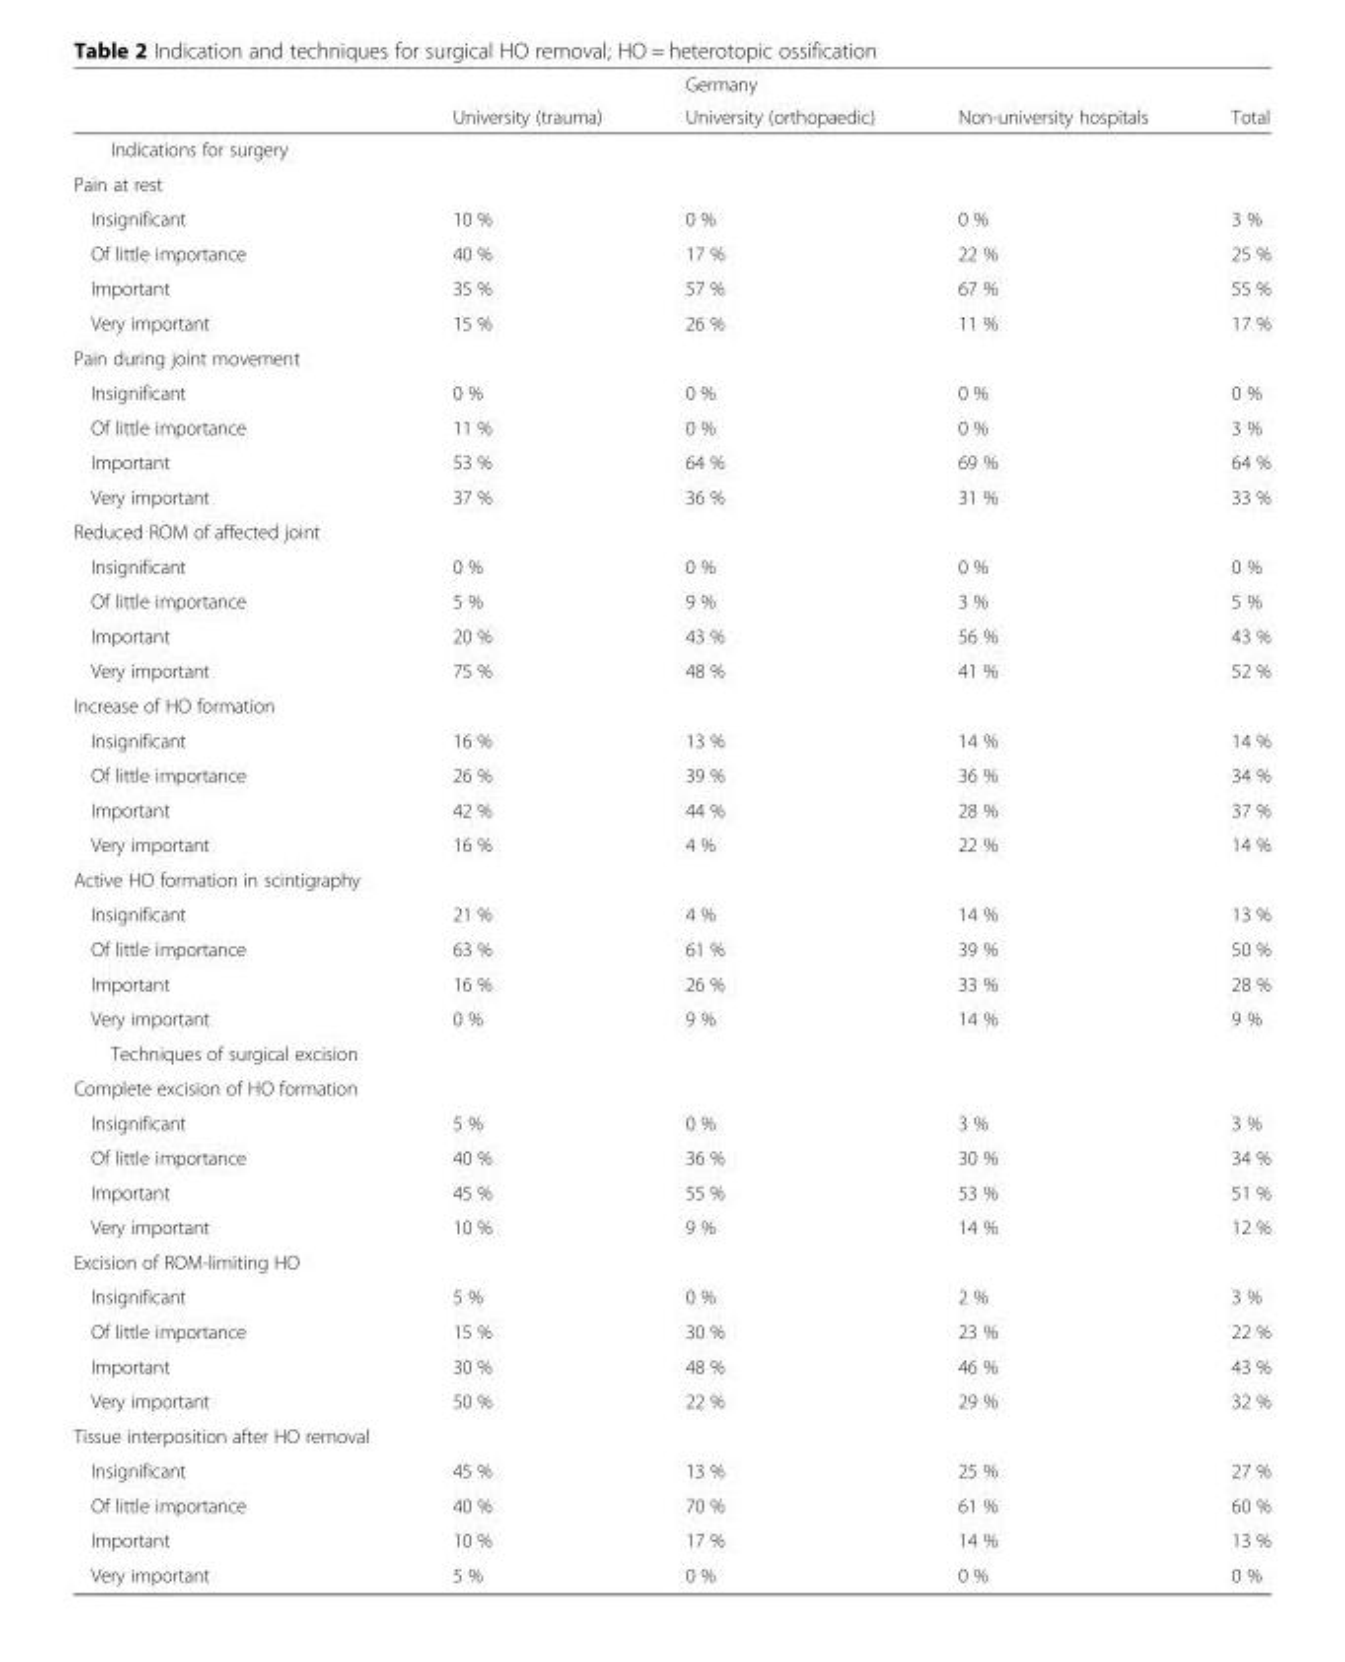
<table><thead><tr><td rowspan="2"></td><td rowspan="2">University (trauma)</td><td rowspan="2">Germany University (orthopaedic)</td><td rowspan="2">Non-university hospitals</td><td rowspan="2">Total</td></tr><tr></tr></thead><tbody><tr><td colspan="5">Indications for surgery</td></tr><tr><td colspan="5">Pain at rest</td></tr><tr><td>Insignificant</td><td>10 %</td><td>0 %</td><td>0 %</td><td>3 %</td></tr><tr><td>Of little importance</td><td>40 %</td><td>17 %</td><td>22 %</td><td>25 %</td></tr><tr><td>Important</td><td>35 %</td><td>57 %</td><td>67 %</td><td>55 %</td></tr><tr><td>Very important</td><td>15 %</td><td>26 %</td><td>11 %</td><td>17 %</td></tr><tr><td colspan="5">Pain during joint movement</td></tr><tr><td>Insignificant</td><td>0 %</td><td>0 %</td><td>0 %</td><td>0 %</td></tr><tr><td>Of little importance</td><td>11 %</td><td>0 %</td><td>0 %</td><td>3 %</td></tr><tr><td>Important</td><td>53 %</td><td>64 %</td><td>69 %</td><td>64 %</td></tr><tr><td>Very important</td><td>37 %</td><td>36 %</td><td>31 %</td><td>33 %</td></tr><tr><td colspan="5">Reduced ROM of affected joint</td></tr><tr><td>Insignificant</td><td>0 %</td><td>0 %</td><td>0 %</td><td>0 %</td></tr><tr><td>Of little importance</td><td>5 %</td><td>9 %</td><td>3 %</td><td>5 %</td></tr><tr><td>Important</td><td>20 %</td><td>43 %</td><td>56 %</td><td>43 %</td></tr><tr><td>Very important</td><td>75 %</td><td>48 %</td><td>41 %</td><td>52 %</td></tr><tr><td colspan="5">Increase of HO formation</td></tr><tr><td>Insignificant</td><td>16 %</td><td>13 %</td><td>14 %</td><td>14 %</td></tr><tr><td>Of little importance</td><td>26 %</td><td>39 %</td><td>36 %</td><td>34 %</td></tr><tr><td>Important</td><td>42 %</td><td>44 %</td><td>28 %</td><td>37 %</td></tr><tr><td>Very important</td><td>16 %</td><td>4 %</td><td>22 %</td><td>14 %</td></tr><tr><td colspan="5">Active HO formation in scintigraphy</td></tr><tr><td>Insignificant</td><td>21 %</td><td>4 %</td><td>14 %</td><td>13 %</td></tr><tr><td>Of little importance</td><td>63 %</td><td>61 %</td><td>39 %</td><td>50 %</td></tr><tr><td>Important</td><td>16 %</td><td>26 %</td><td>33 %</td><td>28 %</td></tr><tr><td>Very important</td><td>0 %</td><td>9 %</td><td>14 %</td><td>9 %</td></tr><tr><td colspan="5">Techniques of surgical excision</td></tr><tr><td colspan="5">Complete excision of HO formation</td></tr><tr><td>Insignificant</td><td>5 %</td><td>0 %</td><td>3 %</td><td>3 %</td></tr><tr><td>Of little importance</td><td>40 %</td><td>36 %</td><td>30 %</td><td>34 %</td></tr><tr><td>Important</td><td>45 %</td><td>55 %</td><td>53 %</td><td>51 %</td></tr><tr><td>Very important</td><td>10 %</td><td>9 %</td><td>14 %</td><td>12 %</td></tr><tr><td colspan="5">Excision of ROM-limiting HO</td></tr><tr><td>Insignificant</td><td>5 %</td><td>0 %</td><td>2 %</td><td>3 %</td></tr><tr><td>Of little importance</td><td>15 %</td><td>30 %</td><td>23 %</td><td>22 %</td></tr><tr><td>Important</td><td>30 %</td><td>48 %</td><td>46 %</td><td>43 %</td></tr><tr><td>Very important</td><td>50 %</td><td>22 %</td><td>29 %</td><td>32 %</td></tr><tr><td colspan="5">Tissue interposition after HO removal</td></tr><tr><td>Insignificant</td><td>45 %</td><td>13 %</td><td>25 %</td><td>27 %</td></tr><tr><td>Of little importance</td><td>40 %</td><td>70 %</td><td>61 %</td><td>60 %</td></tr><tr><td>Important</td><td>10 %</td><td>17 %</td><td>14 %</td><td>13 %</td></tr><tr><td>Very important</td><td>5 %</td><td>0 %</td><td>0 %</td><td>0 %</td></tr></tbody></table>